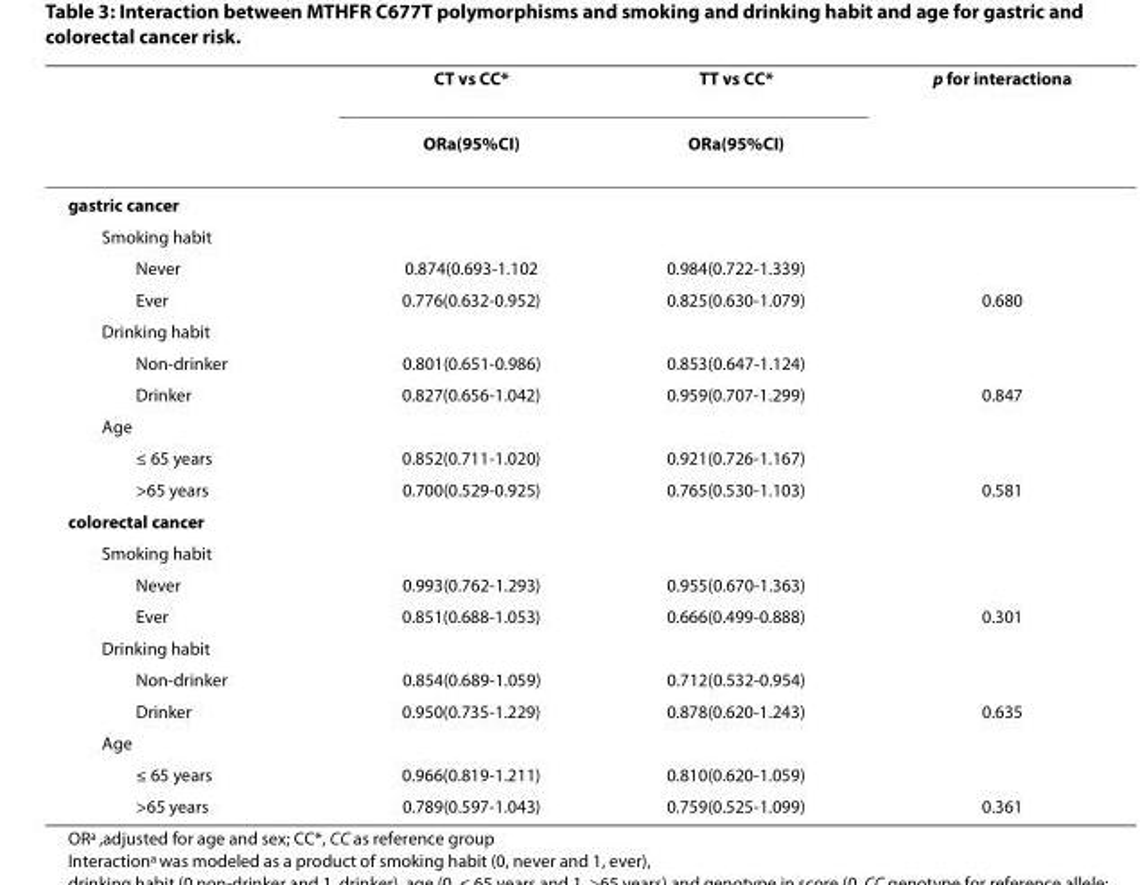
<table><thead><tr><td rowspan="2"></td><td rowspan="2">CT vs CC* OR<sup>a</sup>(95%CI)</td><td rowspan="2">TT vs CC* OR<sup>a</sup>(95%CI)</td><td rowspan="2">p for interaction<sup>a</sup></td></tr><tr></tr></thead><tbody><tr><td colspan="4">gastric cancer</td></tr><tr><td colspan="4">Smoking habit</td></tr><tr><td>Never</td><td>0.874(0.693-1.102</td><td>0.984(0.722-1.339)</td><td></td></tr><tr><td>Ever</td><td>0.776(0.632-0.952)</td><td>0.825(0.630-1.079)</td><td>0.680</td></tr><tr><td colspan="4">Drinking habit</td></tr><tr><td>Non-drinker</td><td>0.801(0.651-0.986)</td><td>0.853(0.647-1.124)</td><td></td></tr><tr><td>Drinker</td><td>0.827(0.656-1.042)</td><td>0.959(0.707-1.299)</td><td>0.847</td></tr><tr><td colspan="4">Age</td></tr><tr><td>≤ 65 years</td><td>0.852(0.711-1.020)</td><td>0.921(0.726-1.167)</td><td></td></tr><tr><td>&gt;65 years</td><td>0.700(0.529-0.925)</td><td>0.765(0.530-1.103)</td><td>0.581</td></tr><tr><td colspan="4">colorectal cancer</td></tr><tr><td colspan="4">Smoking habit</td></tr><tr><td>Never</td><td>0.993(0.762-1.293)</td><td>0.955(0.670-1.363)</td><td></td></tr><tr><td>Ever</td><td>0.851(0.688-1.053)</td><td>0.666(0.499-0.888)</td><td>0.301</td></tr><tr><td colspan="4">Drinking habit</td></tr><tr><td>Non-drinker</td><td>0.854(0.689-1.059)</td><td>0.712(0.532-0.954)</td><td></td></tr><tr><td>Drinker</td><td>0.950(0.735-1.229)</td><td>0.878(0.620-1.243)</td><td>0.635</td></tr><tr><td colspan="4">Age</td></tr><tr><td>≤ 65 years</td><td>0.966(0.819-1.211)</td><td>0.810(0.620-1.059)</td><td></td></tr><tr><td>&gt;65 years</td><td>0.789(0.597-1.043)</td><td>0.759(0.525-1.099)</td><td>0.361</td></tr></tbody></table>